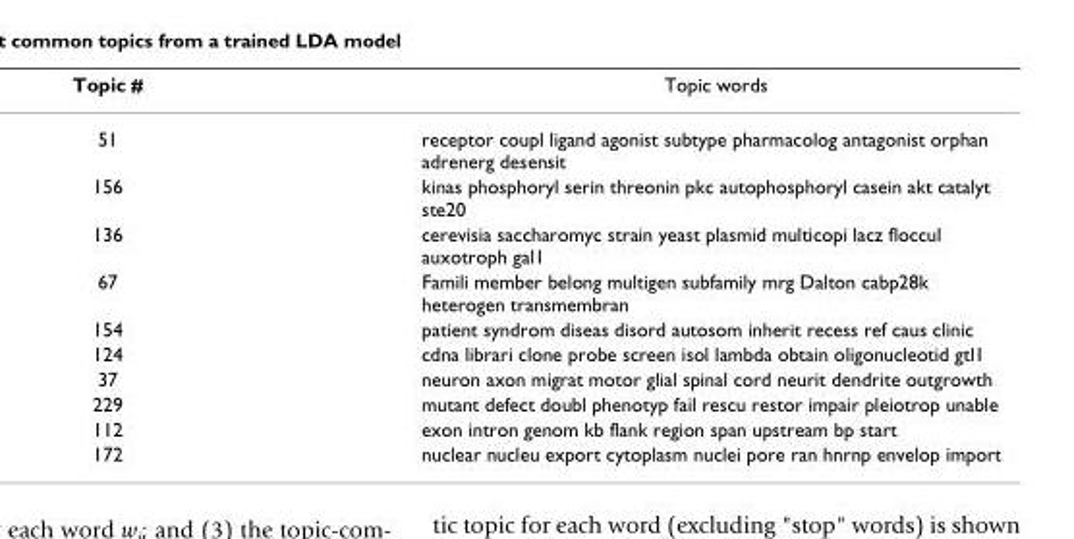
<table><thead><tr><td>Topic #</td><td>Topic words</td></tr></thead><tbody><tr><td>51</td><td>receptor coupl ligand agonist subtype pharmacolog antagonist orphan adrenerg desensit</td></tr><tr><td>156</td><td>kinas phosphoryl serin threonin pkc autophosphoryl casein akt catalyt ste20</td></tr><tr><td>136</td><td>cerevisia saccharomyc strain yeast plasmid multicopi lacz floccul auxotroph gal1</td></tr><tr><td>67</td><td>Famili member belong multigen subfamily mrg Dalton cabp28k heterogen transmembran</td></tr><tr><td>154</td><td>patient syndrom diseas disord autosom inherit recess ref caus clinic</td></tr><tr><td>124</td><td>cdna librari clone probe screen isol lambda obtain oligonucleotid gtl1</td></tr><tr><td>37</td><td>neuron axon migrat motor glial spinal cord neurit dendrite outgrowth</td></tr><tr><td>229</td><td>mutant defect doubl phenotyp fail rescu restor impair pleiotrop unable</td></tr><tr><td>112</td><td>exon intron genom kb flank region span upstream bp start</td></tr><tr><td>172</td><td>nuclear nucleu export cytoplasm nuclei pore ran hnrnp envelop import</td></tr></tbody></table>